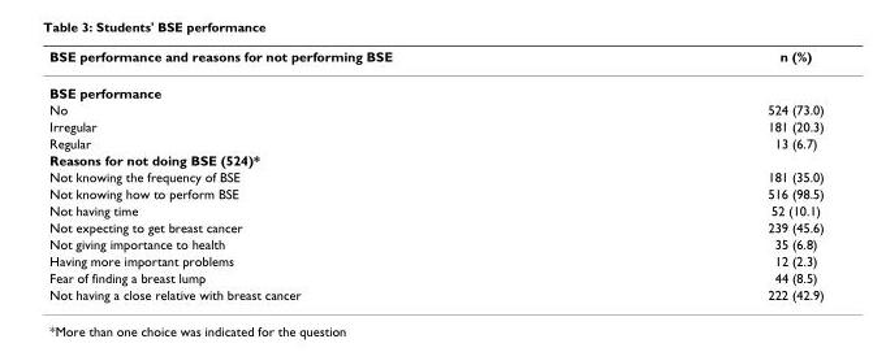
<table><thead><tr><td>BSE performance and reasons for not performing BSE</td><td>n (%)</td></tr></thead><tbody><tr><td colspan="2">BSE performance</td></tr><tr><td>No</td><td>524 (73.0)</td></tr><tr><td>Irregular</td><td>181 (20.3)</td></tr><tr><td>Regular</td><td>13 (6.7)</td></tr><tr><td colspan="2">Reasons for not doing BSE (524)*</td></tr><tr><td>Not knowing the frequency of BSE</td><td>181 (35.0)</td></tr><tr><td>Not knowing how to perform BSE</td><td>516 (98.5)</td></tr><tr><td>Not having time</td><td>52 (10.1)</td></tr><tr><td>Not expecting to get breast cancer</td><td>239 (45.6)</td></tr><tr><td>Not giving importance to health</td><td>35 (6.8)</td></tr><tr><td>Having more important problems</td><td>12 (2.3)</td></tr><tr><td>Fear of finding a breast lump</td><td>44 (8.5)</td></tr><tr><td>Not having a close relative with breast cancer</td><td>222 (42.9)</td></tr></tbody></table>